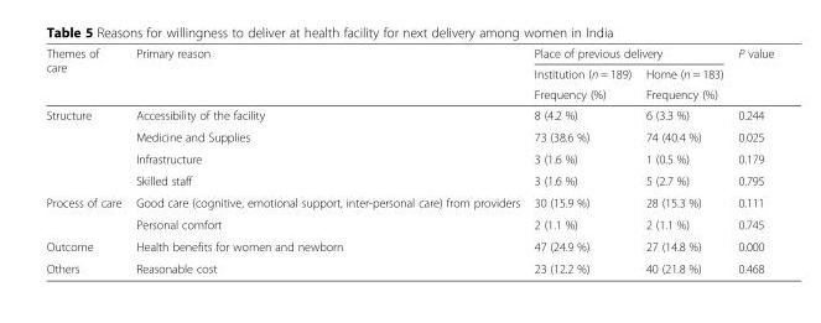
<table><thead><tr><td rowspan="3">Themes of care</td><td rowspan="3">Primary reason</td><td colspan="2">Place of previous delivery</td><td rowspan="3">P value</td></tr><tr><td rowspan="2">Institution (n = 189) Frequency (%)</td><td rowspan="2">Home (n = 183) Frequency (%)</td></tr><tr></tr></thead><tbody><tr><td rowspan="4">Structure</td><td>Accessibility of the facility</td><td>8 (4.2 %)</td><td>6 (3.3 %)</td><td>0.244</td></tr><tr><td>Medicine and Supplies</td><td>73 (38.6 %)</td><td>74 (40.4 %)</td><td>0.025</td></tr><tr><td>Infrastructure</td><td>3 (1.6 %)</td><td>1 (0.5 %)</td><td>0.179</td></tr><tr><td>Skilled staff</td><td>3 (1.6 %)</td><td>5 (2.7 %)</td><td>0.795</td></tr><tr><td rowspan="2">Process of care</td><td>Good care (cognitive, emotional support, inter-personal care) from providers</td><td>30 (15.9 %)</td><td>28 (15.3 %)</td><td>0.111</td></tr><tr><td>Personal comfort</td><td>2 (1.1 %)</td><td>2 (1.1 %)</td><td>0.745</td></tr><tr><td>Outcome</td><td>Health benefits for women and newborn</td><td>47 (24.9 %)</td><td>27 (14.8 %)</td><td>0.000</td></tr><tr><td>Others</td><td>Reasonable cost</td><td>23 (12.2 %)</td><td>40 (21.8 %)</td><td>0.468</td></tr></tbody></table>